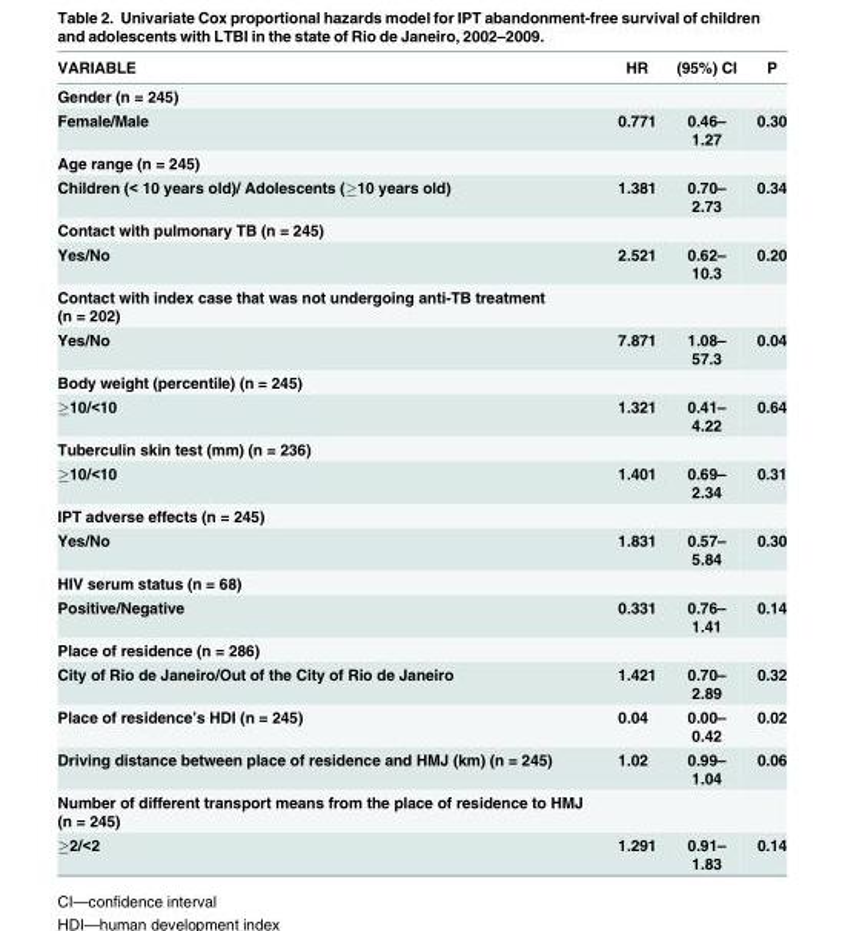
<table><thead><tr><td>VARIABLE</td><td>HR</td><td>(95%) CI</td><td>P</td></tr></thead><tbody><tr><td colspan="4">Gender (n = 245)</td></tr><tr><td>Female/Male</td><td>0.771</td><td>0.46– 1.27</td><td>0.30</td></tr><tr><td colspan="4">Age range (n = 245)</td></tr><tr><td>Children (&lt; 10 years old)/ Adolescents (≥10 years old)</td><td>1.381</td><td>0.70– 2.73</td><td>0.34</td></tr><tr><td colspan="4">Contact with pulmonary TB (n = 245)</td></tr><tr><td>Yes/No</td><td>2.521</td><td>0.62– 10.3</td><td>0.20</td></tr><tr><td colspan="4">Contact with index case that was not undergoing anti-TB treatment (n = 202)</td></tr><tr><td>Yes/No</td><td>7.871</td><td>1.08– 57.3</td><td>0.04</td></tr><tr><td colspan="4">Body weight (percentile) (n = 245)</td></tr><tr><td>≥10/&lt;10</td><td>1.321</td><td>0.41– 4.22</td><td>0.64</td></tr><tr><td colspan="4">Tuberculin skin test (mm) (n = 236)</td></tr><tr><td>≥10/&lt;10</td><td>1.401</td><td>0.69– 2.34</td><td>0.31</td></tr><tr><td colspan="4">IPT adverse effects (n = 245)</td></tr><tr><td>Yes/No</td><td>1.831</td><td>0.57– 5.84</td><td>0.30</td></tr><tr><td colspan="4">HIV serum status (n = 68)</td></tr><tr><td>Positive/Negative</td><td>0.331</td><td>0.76– 1.41</td><td>0.14</td></tr><tr><td colspan="4">Place of residence (n = 286)</td></tr><tr><td>City of Rio de Janeiro/Out of the City of Rio de Janeiro</td><td>1.421</td><td>0.70– 2.89</td><td>0.32</td></tr><tr><td>Place of residence’s HDI (n = 245)</td><td>0.04</td><td>0.00– 0.42</td><td>0.02</td></tr><tr><td>Driving distance between place of residence and HMJ (km) (n = 245)</td><td>1.02</td><td>0.99– 1.04</td><td>0.06</td></tr><tr><td colspan="4">Number of different transport means from the place of residence to HMJ (n = 245)</td></tr><tr><td>≥2/&lt;2</td><td>1.291</td><td>0.91– 1.83</td><td>0.14</td></tr></tbody></table>